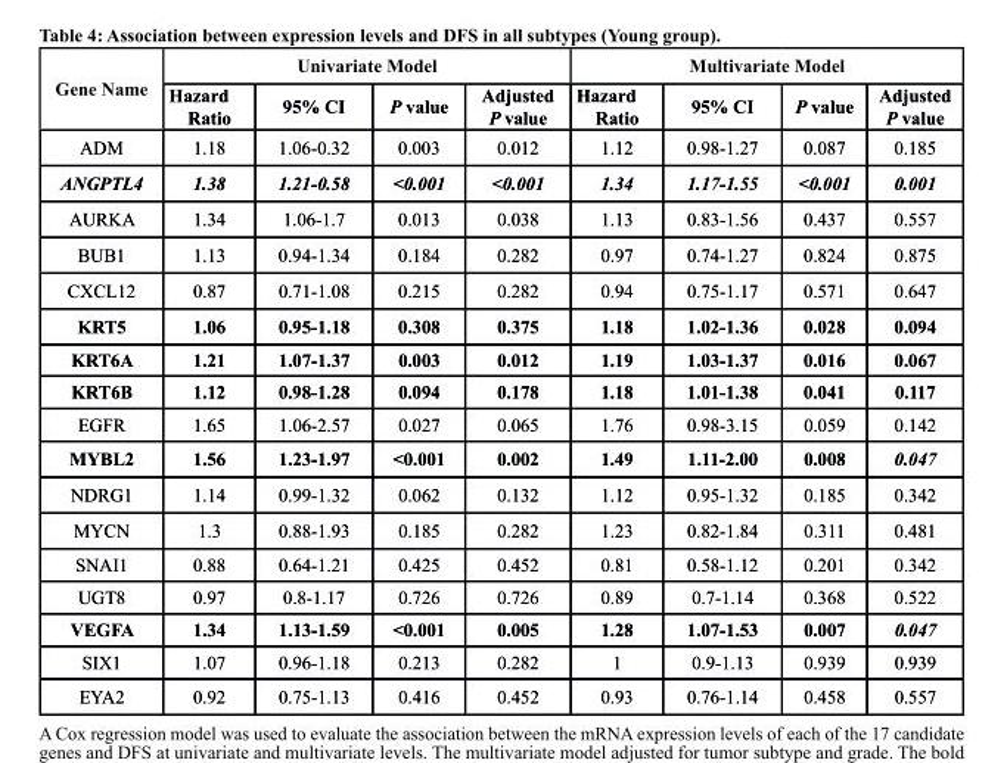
<table><thead><tr><td rowspan="2">Gene Name</td><td colspan="4">Univariate Model</td><td colspan="4">Multivariate Model</td></tr><tr><td>Hazard Ratio</td><td>95% CI</td><td>P value</td><td>Adjusted P value</td><td>Hazard Ratio</td><td>95% CI</td><td>P value</td><td>Adjusted P value</td></tr></thead><tbody><tr><td>ADM</td><td>1.18</td><td>1.06-0.32</td><td>0.003</td><td>0.012</td><td>1.12</td><td>0.98-1.27</td><td>0.087</td><td>0.185</td></tr><tr><td>ANGPTL4</td><td>1.38</td><td>1.21-0.58</td><td>&lt;0.001</td><td>&lt;0.001</td><td>1.34</td><td>1.17-1.55</td><td>&lt;0.001</td><td>0.001</td></tr><tr><td>AURKA</td><td>1.34</td><td>1.06-1.7</td><td>0.013</td><td>0.038</td><td>1.13</td><td>0.83-1.56</td><td>0.437</td><td>0.557</td></tr><tr><td>BUB1</td><td>1.13</td><td>0.94-1.34</td><td>0.184</td><td>0.282</td><td>0.97</td><td>0.74-1.27</td><td>0.824</td><td>0.875</td></tr><tr><td>CXCL12</td><td>0.87</td><td>0.71-1.08</td><td>0.215</td><td>0.282</td><td>0.94</td><td>0.75-1.17</td><td>0.571</td><td>0.647</td></tr><tr><td>KRT5</td><td>1.06</td><td>0.95-1.18</td><td>0.308</td><td>0.375</td><td>1.18</td><td>1.02-1.36</td><td>0.028</td><td>0.094</td></tr><tr><td>KRT6A</td><td>1.21</td><td>1.07-1.37</td><td>0.003</td><td>0.012</td><td>1.19</td><td>1.03-1.37</td><td>0.016</td><td>0.067</td></tr><tr><td>KRT6B</td><td>1.12</td><td>0.98-1.28</td><td>0.094</td><td>0.178</td><td>1.18</td><td>1.01-1.38</td><td>0.041</td><td>0.117</td></tr><tr><td>EGFR</td><td>1.65</td><td>1.06-2.57</td><td>0.027</td><td>0.065</td><td>1.76</td><td>0.98-3.15</td><td>0.059</td><td>0.142</td></tr><tr><td>MYBL2</td><td>1.56</td><td>1.23-1.97</td><td>&lt;0.001</td><td>0.002</td><td>1.49</td><td>1.11-2.00</td><td>0.008</td><td>0.047</td></tr><tr><td>NDRG1</td><td>1.14</td><td>0.99-1.32</td><td>0.062</td><td>0.132</td><td>1.12</td><td>0.95-1.32</td><td>0.185</td><td>0.342</td></tr><tr><td>MYCN</td><td>1.3</td><td>0.88-1.93</td><td>0.185</td><td>0.282</td><td>1.23</td><td>0.82-1.84</td><td>0.311</td><td>0.481</td></tr><tr><td>SNAI1</td><td>0.88</td><td>0.64-1.21</td><td>0.425</td><td>0.452</td><td>0.81</td><td>0.58-1.12</td><td>0.201</td><td>0.342</td></tr><tr><td>UGT8</td><td>0.97</td><td>0.8-1.17</td><td>0.726</td><td>0.726</td><td>0.89</td><td>0.7-1.14</td><td>0.368</td><td>0.522</td></tr><tr><td>VeGFA</td><td>1.34</td><td>1.13-1.59</td><td>&lt;0.001</td><td>0.005</td><td>1.28</td><td>1.07-1.53</td><td>0.007</td><td>0.047</td></tr><tr><td>SIX1</td><td>1.07</td><td>0.96-1.18</td><td>0.213</td><td>0.282</td><td>1</td><td>0.9-1.13</td><td>0.939</td><td>0.939</td></tr><tr><td>EYA2</td><td>0.92</td><td>0.75-1.13</td><td>0.416</td><td>0.452</td><td>0.93</td><td>0.76-1.14</td><td>0.458</td><td>0.557</td></tr></tbody></table>